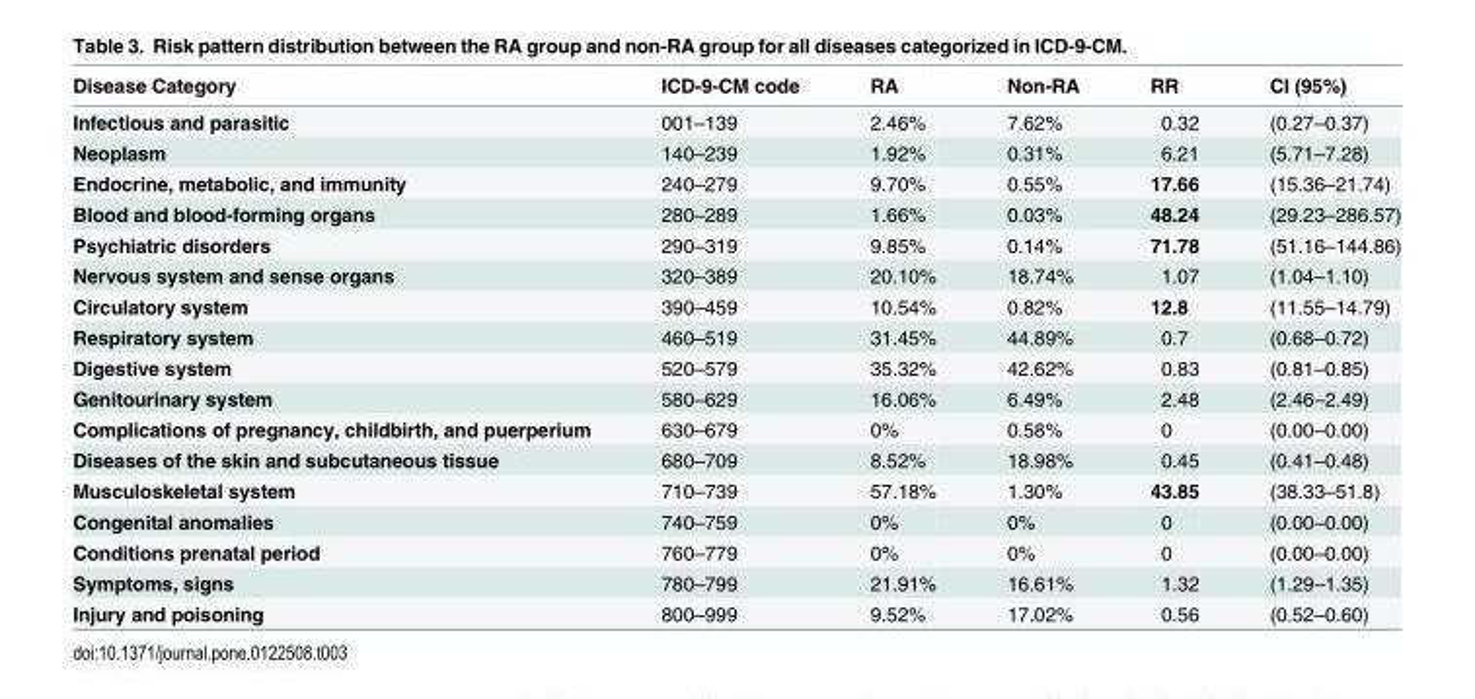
<table><thead><tr><td>Disease Category</td><td>ICD-9-CM code</td><td>RA</td><td>Non-RA</td><td>RR</td><td>CI (95%)</td></tr></thead><tbody><tr><td>Infectious and parasitic</td><td>001–139</td><td>2.46%</td><td>7.62%</td><td>0.32</td><td>(0.27–0.37)</td></tr><tr><td>Neoplasm</td><td>140–239</td><td>1.92%</td><td>0.31%</td><td>6.21</td><td>(5.71–7.28)</td></tr><tr><td>Endocrine, metabolic, and immunity</td><td>240–279</td><td>9.70%</td><td>0.55%</td><td>17.66</td><td>(15.36–21.74)</td></tr><tr><td>Blood and blood-forming organs</td><td>280–289</td><td>1.66%</td><td>0.03%</td><td>48.24</td><td>(29.23–286.57)</td></tr><tr><td>Psychiatric disorders</td><td>290–319</td><td>9.85%</td><td>0.14%</td><td>71.78</td><td>(51.16–144.86)</td></tr><tr><td>Nervous system and sense organs</td><td>320–389</td><td>20.10%</td><td>18.74%</td><td>1.07</td><td>(1.04–1.10)</td></tr><tr><td>Circulatory system</td><td>390–459</td><td>10.54%</td><td>0.82%</td><td>12.8</td><td>(11.55–14.79)</td></tr><tr><td>Respiratory system</td><td>460–519</td><td>31.45%</td><td>44.89%</td><td>0.7</td><td>(0.68–0.72)</td></tr><tr><td>Digestive system</td><td>520–579</td><td>35.32%</td><td>42.62%</td><td>0.83</td><td>(0.81–0.85)</td></tr><tr><td>Genitourinary system</td><td>580–629</td><td>16.06%</td><td>6.49%</td><td>2.48</td><td>(2.46–2.49)</td></tr><tr><td>Complications of pregnancy, childbirth, and puerperium</td><td>630–679</td><td>0%</td><td>0.58%</td><td>0</td><td>(0.00–0.00)</td></tr><tr><td>Diseases of the skin and subcutaneous tissue</td><td>680–709</td><td>8.52%</td><td>18.98%</td><td>0.45</td><td>(0.41–0.48)</td></tr><tr><td>Musculoskeletal system</td><td>710–739</td><td>57.18%</td><td>1.30%</td><td>43.85</td><td>(38.33–51.8)</td></tr><tr><td>Congenital anomalies</td><td>740–759</td><td>0%</td><td>0%</td><td>0</td><td>(0.00–0.00)</td></tr><tr><td>Conditions prenatal period</td><td>760–779</td><td>0%</td><td>0%</td><td>0</td><td>(0.00–0.00)</td></tr><tr><td>Symptoms, signs</td><td>780–799</td><td>21.91%</td><td>16.61%</td><td>1.32</td><td>(1.29–1.35)</td></tr><tr><td>Injury and poisoning</td><td>800–999</td><td>9.52%</td><td>17.02%</td><td>0.56</td><td>(0.52–0.60)</td></tr></tbody></table>